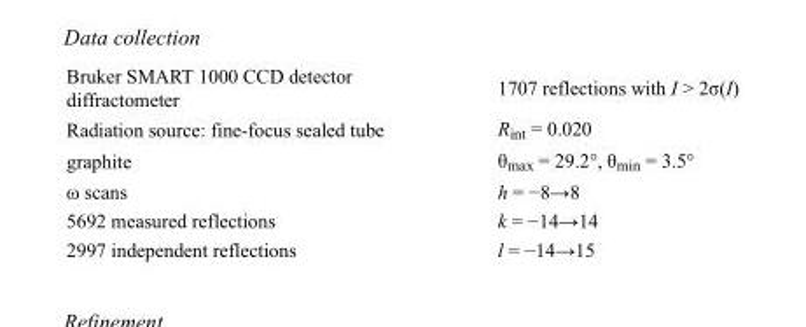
<table><tbody><tr><td>Bruker SMART 1000 CCD detector diffractometer</td><td>1707 reflections with I &gt; 2σ(I)</td></tr><tr><td>Radiation source: fine-focus sealed tube</td><td>R<sub>int</sub> = 0.020</td></tr><tr><td>graphite</td><td>θ<sub>max</sub> = 29.2°, θ<sub>min</sub> = 3.5°</td></tr><tr><td>ω scans</td><td>h = −8→8</td></tr><tr><td>5692 measured reflections</td><td>k = −14→14</td></tr><tr><td>2997 independent reflections</td><td>l = −14→15</td></tr></tbody></table>